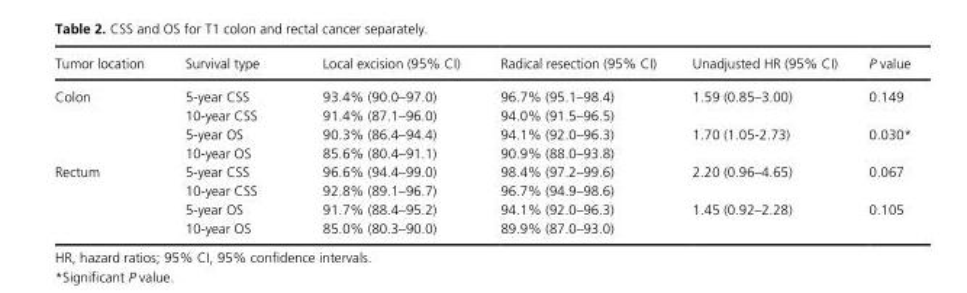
<table><thead><tr><td>Tumor location</td><td>Survival type</td><td>Local excision (95% CI)</td><td>Radical resection (95% CI)</td><td>Unadjusted HR (95% CI)</td><td>P value</td></tr></thead><tbody><tr><td rowspan="4">Colon</td><td>5- year CSS</td><td>93.4% (90.0–97.0)</td><td>96.7% (95.1–98.4)</td><td rowspan="2">1.59 (0.85–3.00)</td><td rowspan="2">0.149</td></tr><tr><td>10- year CSS</td><td>91.4% (87.1–96.0)</td><td>94.0% (91.5–96.5)</td></tr><tr><td>5- year OS</td><td>90.3% (86.4–94.4)</td><td>94.1% (92.0–96.3)</td><td rowspan="2">1.70 (1.05- 2.73)</td><td rowspan="2">0.030*</td></tr><tr><td>10- year OS</td><td>85.6% (80.4–91.1)</td><td>90.9% (88.0–93.8)</td></tr><tr><td rowspan="4">Rectum</td><td>5- year CSS</td><td>96.6% (94.4–99.0)</td><td>98.4% (97.2–99.6)</td><td rowspan="2">2.20 (0.96–4.65)</td><td rowspan="2">0.067</td></tr><tr><td>10- year CSS</td><td>92.8% (89.1–96.7)</td><td>96.7% (94.9–98.6)</td></tr><tr><td>5- year OS</td><td>91.7% (88.4–95.2)</td><td>94.1% (92.0–96.3)</td><td rowspan="2">1.45 (0.92–2.28)</td><td rowspan="2">0.105</td></tr><tr><td>10- year OS</td><td>85.0% (80.3–90.0)</td><td>89.9% (87.0–93.0)</td></tr></tbody></table>